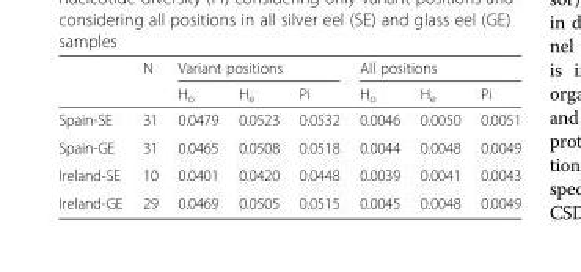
<table><thead><tr><td rowspan="2"></td><td rowspan="2">N</td><td colspan="3">Variant positions</td><td colspan="3">All positions</td></tr><tr><td>H<sub>o</sub></td><td>H<sub>e</sub></td><td>Pi</td><td>H<sub>o</sub></td><td>H<sub>e</sub></td><td>Pi</td></tr></thead><tbody><tr><td>Spain-SE</td><td>31</td><td>0.0479</td><td>0.0523</td><td>0.0532</td><td>0.0046</td><td>0.0050</td><td>0.0051</td></tr><tr><td>Spain-GE</td><td>31</td><td>0.0465</td><td>0.0508</td><td>0.0518</td><td>0.0044</td><td>0.0048</td><td>0.0049</td></tr><tr><td>Ireland-SE</td><td>10</td><td>0.0401</td><td>0.0420</td><td>0.0448</td><td>0.0039</td><td>0.0041</td><td>0.0043</td></tr><tr><td>Ireland-GE</td><td>29</td><td>0.0469</td><td>0.0505</td><td>0.0515</td><td>0.0045</td><td>0.0048</td><td>0.0049</td></tr></tbody></table>